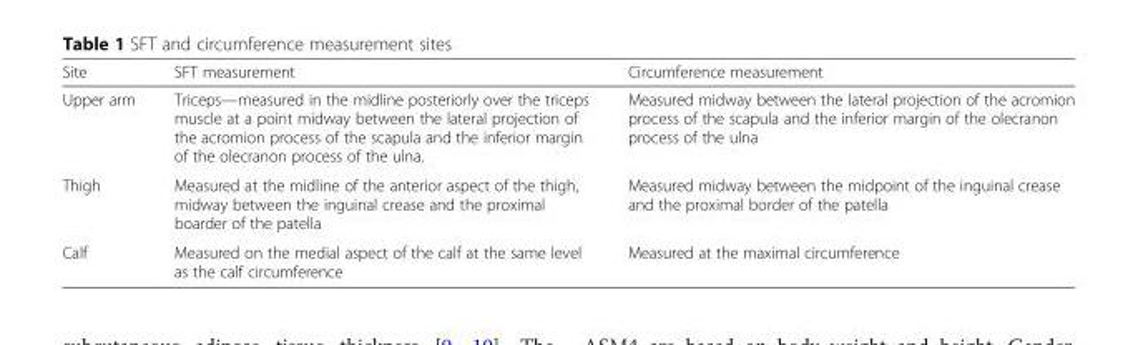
<table><thead><tr><td>Site</td><td>SFT measurement</td><td>Circumference measurement</td></tr></thead><tbody><tr><td>Upper arm</td><td>Triceps—measured in the midline posteriorly over the triceps muscle at a point midway between the lateral projection of the acromion process of the scapula and the inferior margin of the olecranon process of the ulna.</td><td>Measured midway between the lateral projection of the acromion process of the scapula and the inferior margin of the olecranon process of the ulna</td></tr><tr><td>Thigh</td><td>Measured at the midline of the anterior aspect of the thigh, midway between the inguinal crease and the proximal boarder of the patella</td><td>Measured midway between the midpoint of the inguinal crease and the proximal border of the patella</td></tr><tr><td>Calf</td><td>Measured on the medial aspect of the calf at the same level as the calf circumference</td><td>Measured at the maximal circumference</td></tr></tbody></table>